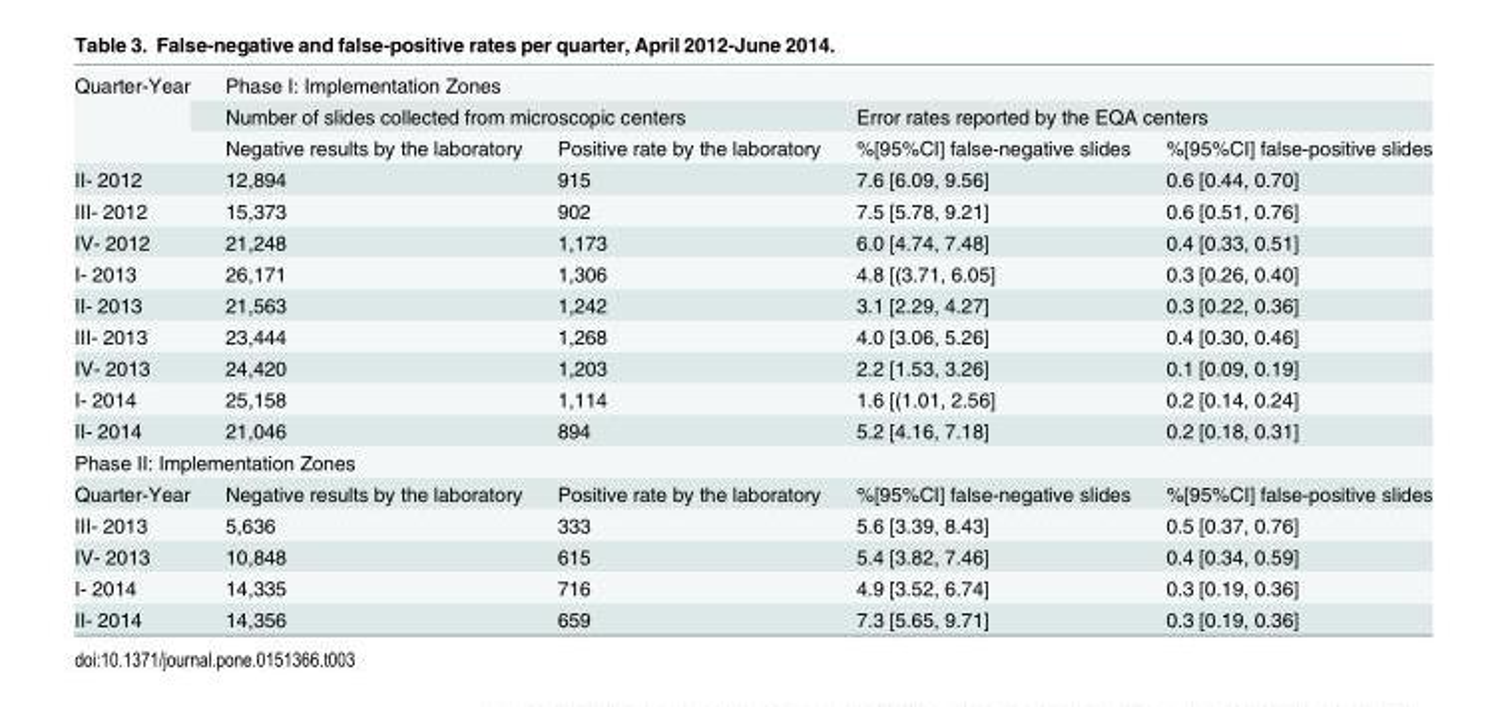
<table><tbody><tr><td rowspan="3">Quarter-Year</td><td colspan="4">Phase I: Implementation Zones</td></tr><tr><td colspan="2">Number of slides collected from microscopic centers</td><td colspan="2">Error rates reported by the EQA centers</td></tr><tr><td>Negative results by the laboratory</td><td>Positive rate by the laboratory</td><td>%[95%CI] false-negative slides</td><td>%[95%CI] false-positive slides</td></tr><tr><td>II- 2012</td><td>12,894</td><td>915</td><td>7.6 [6.09, 9.56]</td><td>0.6 [0.44, 0.70]</td></tr><tr><td>III- 2012</td><td>15,373</td><td>902</td><td>7.5 [5.78, 9.21]</td><td>0.6 [0.51, 0.76]</td></tr><tr><td>IV- 2012</td><td>21,248</td><td>1,173</td><td>6.0 [4.74, 7.48]</td><td>0.4 [0.33, 0.51]</td></tr><tr><td>I- 2013</td><td>26,171</td><td>1,306</td><td>4.8 [(3.71, 6.05]</td><td>0.3 [0.26, 0.40]</td></tr><tr><td>II- 2013</td><td>21,563</td><td>1,242</td><td>3.1 [2.29, 4.27]</td><td>0.3 [0.22, 0.36]</td></tr><tr><td>III- 2013</td><td>23,444</td><td>1,268</td><td>4.0 [3.06, 5.26]</td><td>0.4 [0.30, 0.46]</td></tr><tr><td>IV- 2013</td><td>24,420</td><td>1,203</td><td>2.2 [1.53, 3.26]</td><td>0.1 [0.09, 0.19]</td></tr><tr><td>I- 2014</td><td>25,158</td><td>1,114</td><td>1.6 [(1.01, 2.56]</td><td>0.2 [0.14, 0.24]</td></tr><tr><td>II- 2014</td><td>21,046</td><td>894</td><td>5.2 [4.16, 7.18]</td><td>0.2 [0.18, 0.31]</td></tr><tr><td colspan="5">Phase II: Implementation Zones</td></tr><tr><td>Quarter-Year</td><td>Negative results by the laboratory</td><td>Positive rate by the laboratory</td><td>%[95%CI] false-negative slides</td><td>%[95%CI] false-positive slides</td></tr><tr><td>III- 2013</td><td>5,636</td><td>333</td><td>5.6 [3.39, 8.43]</td><td>0.5 [0.37, 0.76]</td></tr><tr><td>IV- 2013</td><td>10,848</td><td>615</td><td>5.4 [3.82, 7.46]</td><td>0.4 [0.34, 0.59]</td></tr><tr><td>I- 2014</td><td>14,335</td><td>716</td><td>4.9 [3.52, 6.74]</td><td>0.3 [0.19, 0.36]</td></tr><tr><td>II- 2014</td><td>14,356</td><td>659</td><td>7.3 [5.65, 9.71]</td><td>0.3 [0.19, 0.36]</td></tr></tbody></table>